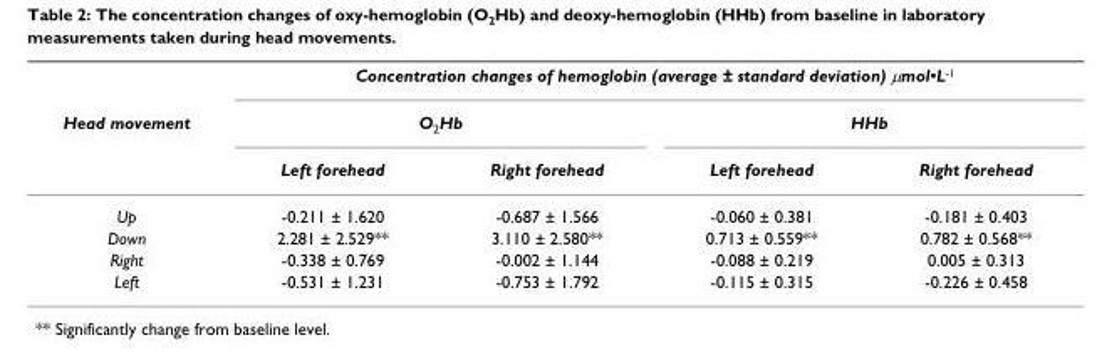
<table><thead><tr><td rowspan="3">Head movement</td><td colspan="4">Concentration changes of hemoglobin (average ± standard deviation) μmol•L<sup>-1</sup></td></tr><tr><td colspan="2">O<sub>2</sub>Hb</td><td colspan="2">HHb</td></tr><tr><td>Left forehead</td><td>Right forehead</td><td>Left forehead</td><td>Right forehead</td></tr></thead><tbody><tr><td>Up</td><td>-0.211 ± 1.620</td><td>-0.687 ± 1.566</td><td>-0.060 ± 0.381</td><td>-0.181 ± 0.403</td></tr><tr><td>Down</td><td>2.281 ± 2.529**</td><td>3.110 ± 2.580**</td><td>0.713 ± 0.559**</td><td>0.782 ± 0.568**</td></tr><tr><td>Right</td><td>-0.338 ± 0.769</td><td>-0.002 ± 1.144</td><td>-0.088 ± 0.219</td><td>0.005 ± 0.313</td></tr><tr><td>Left</td><td>-0.531 ± 1.231</td><td>-0.753 ± 1.792</td><td>-0.115 ± 0.315</td><td>-0.226 ± 0.458</td></tr></tbody></table>